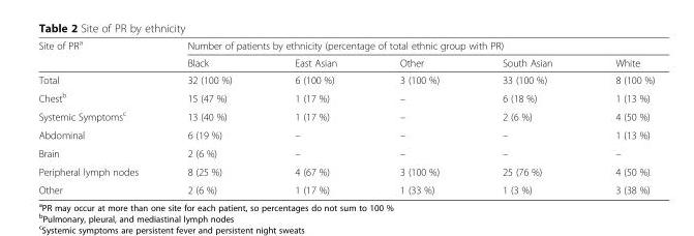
<table><thead><tr><td rowspan="2">Site of PR<sup>a</sup></td><td colspan="5">Number of patients by ethnicity (percentage of total ethnic group with PR)</td></tr><tr><td>Black</td><td>East Asian</td><td>Other</td><td>South Asian</td><td>White</td></tr></thead><tbody><tr><td>Total</td><td>32 (100 %)</td><td>6 (100 %)</td><td>3 (100 %)</td><td>33 (100 %)</td><td>8 (100 %)</td></tr><tr><td>Chest<sup>b</sup></td><td>15 (47 %)</td><td>1 (17 %)</td><td>–</td><td>6 (18 %)</td><td>1 (13 %)</td></tr><tr><td>Systemic Symptoms<sup>c</sup></td><td>13 (40 %)</td><td>1 (17 %)</td><td>–</td><td>2 (6 %)</td><td>4 (50 %)</td></tr><tr><td>Abdominal</td><td>6 (19 %)</td><td>–</td><td>–</td><td>–</td><td>1 (13 %)</td></tr><tr><td>Brain</td><td>2 (6 %)</td><td>–</td><td>–</td><td>–</td><td>–</td></tr><tr><td>Peripheral lymph nodes</td><td>8 (25 %)</td><td>4 (67 %)</td><td>3 (100 %)</td><td>25 (76 %)</td><td>4 (50 %)</td></tr><tr><td>Other</td><td>2 (6 %)</td><td>1 (17 %)</td><td>1 (33 %)</td><td>1 (3 %)</td><td>3 (38 %)</td></tr></tbody></table>